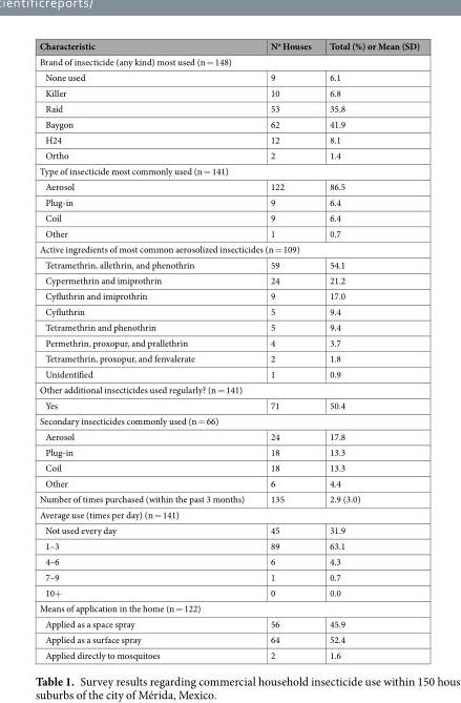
<table><thead><tr><td>Characteristic</td><td>N<sup>o</sup> Houses</td><td>Total (%) or Mean (SD)</td></tr></thead><tbody><tr><td colspan="3">Brand of insecticide (any kind) most used (n = 148)</td></tr><tr><td>None used</td><td>9</td><td>6.1</td></tr><tr><td>Killer</td><td>10</td><td>6.8</td></tr><tr><td>Raid</td><td>53</td><td>35.8</td></tr><tr><td>Baygon</td><td>62</td><td>41.9</td></tr><tr><td>H24</td><td>12</td><td>8.1</td></tr><tr><td>Ortho</td><td>2</td><td>1.4</td></tr><tr><td colspan="3">Type of insecticide most commonly used (n = 141)</td></tr><tr><td>Aerosol</td><td>122</td><td>86.5</td></tr><tr><td>Plug-in</td><td>9</td><td>6.4</td></tr><tr><td>Coil</td><td>9</td><td>6.4</td></tr><tr><td>Other</td><td>1</td><td>0.7</td></tr><tr><td colspan="3">Active ingredients of most common aerosolized insecticides (n = 109)</td></tr><tr><td>Tetramethrin, allethrin, and phenothrin</td><td>59</td><td>54.1</td></tr><tr><td>Cypermethrin and imiprothrin</td><td>24</td><td>21.2</td></tr><tr><td>Cyfluthrin and imiprothrin</td><td>9</td><td>17.0</td></tr><tr><td>Cyfluthrin</td><td>5</td><td>9.4</td></tr><tr><td>Tetramethrin and phenothrin</td><td>5</td><td>9.4</td></tr><tr><td>Permethrin, proxopur, and prallethrin</td><td>4</td><td>3.7</td></tr><tr><td>Tetramethrin, proxopur, and fenvalerate</td><td>2</td><td>1.8</td></tr><tr><td>Unidentified</td><td>1</td><td>0.9</td></tr><tr><td colspan="3">Other additional insecticides used regularly? (n = 141)</td></tr><tr><td>Yes</td><td>71</td><td>50.4</td></tr><tr><td colspan="3">Secondary insecticides commonly used (n = 66)</td></tr><tr><td>Aerosol</td><td>24</td><td>17.8</td></tr><tr><td>Plug-in</td><td>18</td><td>13.3</td></tr><tr><td>Coil</td><td>18</td><td>13.3</td></tr><tr><td>Other</td><td>6</td><td>4.4</td></tr><tr><td>Number of times purchased (within the past 3 months)</td><td>135</td><td>2.9 (3.0)</td></tr><tr><td colspan="3">Average use (times per day) (n = 141)</td></tr><tr><td>Not used every day</td><td>45</td><td>31.9</td></tr><tr><td>1–3</td><td>89</td><td>63.1</td></tr><tr><td>4–6</td><td>6</td><td>4.3</td></tr><tr><td>7–9</td><td>1</td><td>0.7</td></tr><tr><td>10+</td><td>0</td><td>0.0</td></tr><tr><td colspan="3">Means of application in the home (n = 122)</td></tr><tr><td>Applied as a space spray</td><td>56</td><td>45.9</td></tr><tr><td>Applied as a surface spray</td><td>64</td><td>52.4</td></tr><tr><td>Applied directly to mosquitoes</td><td>2</td><td>1.6</td></tr></tbody></table>